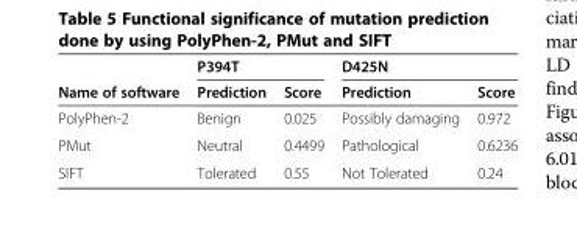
<table><thead><tr><td rowspan="2">Name of software</td><td colspan="2">P394T</td><td colspan="2">D425N</td></tr><tr><td>Prediction</td><td>Score</td><td>Prediction</td><td>Score</td></tr></thead><tbody><tr><td>PolyPhen-2</td><td>Benign</td><td>0.025</td><td>Possibly damaging</td><td>0.972</td></tr><tr><td>PMut</td><td>Neutral</td><td>0.4499</td><td>Pathological</td><td>0.6236</td></tr><tr><td>SIFT</td><td>Tolerated</td><td>0.55</td><td>Not Tolerated</td><td>0.24</td></tr></tbody></table>